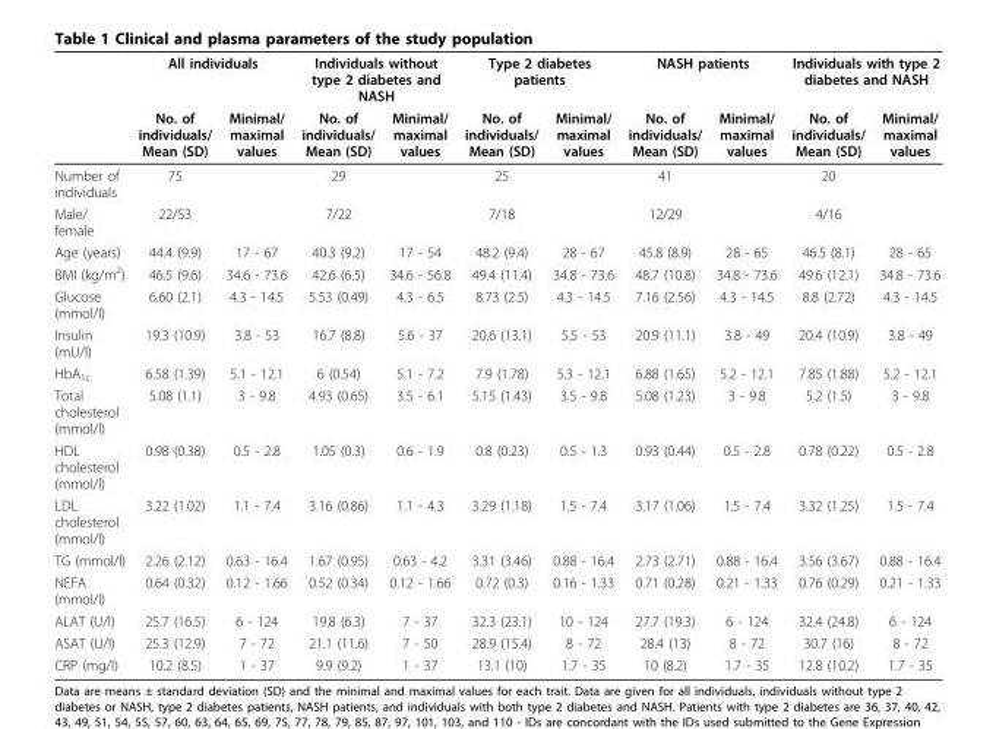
<table><thead><tr><td rowspan="2"></td><td colspan="2">All individuals</td><td colspan="2">Individuals without type 2 diabetes and NASH</td><td colspan="2">Type 2 diabetes patients</td><td colspan="2">NASH patients</td><td colspan="2">Individuals with type 2 diabetes and NASH</td></tr><tr><td>No. of individuals/ Mean (SD)</td><td>Minimal/ maximal values</td><td>No. of individuals/ Mean (SD)</td><td>Minimal/ maximal values</td><td>No. of individuals/ Mean (SD)</td><td>Minimal/ maximal values</td><td>No. of individuals/ Mean (SD)</td><td>Minimal/ maximal values</td><td>No. of individuals/ Mean (SD)</td><td>Minimal/ maximal values</td></tr></thead><tbody><tr><td>Number of individuals</td><td>75</td><td></td><td>29</td><td></td><td>25</td><td></td><td>41</td><td></td><td>20</td><td></td></tr><tr><td>Male/ female</td><td>22/53</td><td></td><td>7/22</td><td></td><td>7/18</td><td></td><td>12/29</td><td></td><td>4/16</td><td></td></tr><tr><td>Age (years)</td><td>44.4 (9.9)</td><td>17 - 67</td><td>40.3 (9.2)</td><td>17 - 54</td><td>48.2 (9.4)</td><td>28 - 67</td><td>45.8 (8.9)</td><td>28 - 65</td><td>46.5 (8.1)</td><td>28 - 65</td></tr><tr><td>BMI (kg/m<sup>2</sup>)</td><td>46.5 (9.6)</td><td>34.6 - 73.6</td><td>42.6 (6.5)</td><td>34.6 - 56.8</td><td>49.4 (11.4)</td><td>34.8 - 73.6</td><td>48.7 (10.8)</td><td>34.8 - 73.6</td><td>49.6 (12.1)</td><td>34.8 - 73.6</td></tr><tr><td>Glucose (mmol/l)</td><td>6.60 (2.1)</td><td>4.3 - 14.5</td><td>5.53 (0.49)</td><td>4.3 - 6.5</td><td>8.73 (2.5)</td><td>4.3 - 14.5</td><td>7.16 (2.56)</td><td>4.3 - 14.5</td><td>8.8 (2.72)</td><td>4.3 - 14.5</td></tr><tr><td>Insulin (mU/l)</td><td>19.3 (10.9)</td><td>3.8 - 53</td><td>16.7 (8.8)</td><td>5.6 - 37</td><td>20.6 (13.1)</td><td>5.5 - 53</td><td>20.9 (11.1)</td><td>3.8 - 49</td><td>20.4 (10.9)</td><td>3.8 - 49</td></tr><tr><td>HbA<sub>1c</sub></td><td>6.58 (1.39)</td><td>5.1 - 12.1</td><td>6 (0.54)</td><td>5.1 - 7.2</td><td>7.9 (1.78)</td><td>5.3 - 12.1</td><td>6.88 (1.65)</td><td>5.2 - 12.1</td><td>7.85 (1.88)</td><td>5.2 - 12.1</td></tr><tr><td>Total cholesterol (mmol/l)</td><td>5.08 (1.1)</td><td>3 - 9.8</td><td>4.93 (0.65)</td><td>3.5 - 6.1</td><td>5.15 (1.43)</td><td>3.5 - 9.8</td><td>5.08 (1.23)</td><td>3 - 9.8</td><td>5.2 (1.5)</td><td>3 - 9.8</td></tr><tr><td>HDL cholesterol (mmol/l)</td><td>0.98 (0.38)</td><td>0.5 - 2.8</td><td>1.05 (0.3)</td><td>0.6 - 1.9</td><td>0.8 (0.23)</td><td>0.5 - 1.3</td><td>0.93 (0.44)</td><td>0.5 - 2.8</td><td>0.78 (0.22)</td><td>0.5 - 2.8</td></tr><tr><td>LDL cholesterol (mmol/l)</td><td>3.22 (1.02)</td><td>1.1 - 7.4</td><td>3.16 (0.86)</td><td>1.1 - 4.3</td><td>3.29 (1.18)</td><td>1.5 - 7.4</td><td>3.17 (1.06)</td><td>1.5 - 7.4</td><td>3.32 (1.25)</td><td>1.5 - 7.4</td></tr><tr><td>TG (mmol/l)</td><td>2.26 (2.12)</td><td>0.63 - 16.4</td><td>1.67 (0.95)</td><td>0.63 - 4.2</td><td>3.31 (3.46)</td><td>0.88 - 16.4</td><td>2.73 (2.71)</td><td>0.88 - 16.4</td><td>3.56 (3.67)</td><td>0.88 - 16.4</td></tr><tr><td>NEFA (mmol/l)</td><td>0.64 (0.32)</td><td>0.12 - 1.66</td><td>0.52 (0.34)</td><td>0.12 - 1.66</td><td>0.72 (0.3)</td><td>0.16 - 1.33</td><td>0.71 (0.28)</td><td>0.21 - 1.33</td><td>0.76 (0.29)</td><td>0.21 - 1.33</td></tr><tr><td>ALAT (U/l)</td><td>25.7 (16.5)</td><td>6 - 124</td><td>19.8 (6.3)</td><td>7 - 37</td><td>32.3 (23.1)</td><td>10 - 124</td><td>27.7 (19.3)</td><td>6 - 124</td><td>32.4 (24.8)</td><td>6 - 124</td></tr><tr><td>ASAT (U/l)</td><td>25.3 (12.9)</td><td>7 - 72</td><td>21.1 (11.6)</td><td>7 - 50</td><td>28.9 (15.4)</td><td>8 - 72</td><td>28.4 (13)</td><td>8 - 72</td><td>30.7 (16)</td><td>8 - 72</td></tr><tr><td>CRP (mg/l)</td><td>10.2 (8.5)</td><td>1 - 37</td><td>9.9 (9.2)</td><td>1 - 37</td><td>13.1 (10)</td><td>1.7 - 35</td><td>10 (8.2)</td><td>1.7 - 35</td><td>12.8 (10.2)</td><td>1.7 - 35</td></tr></tbody></table>